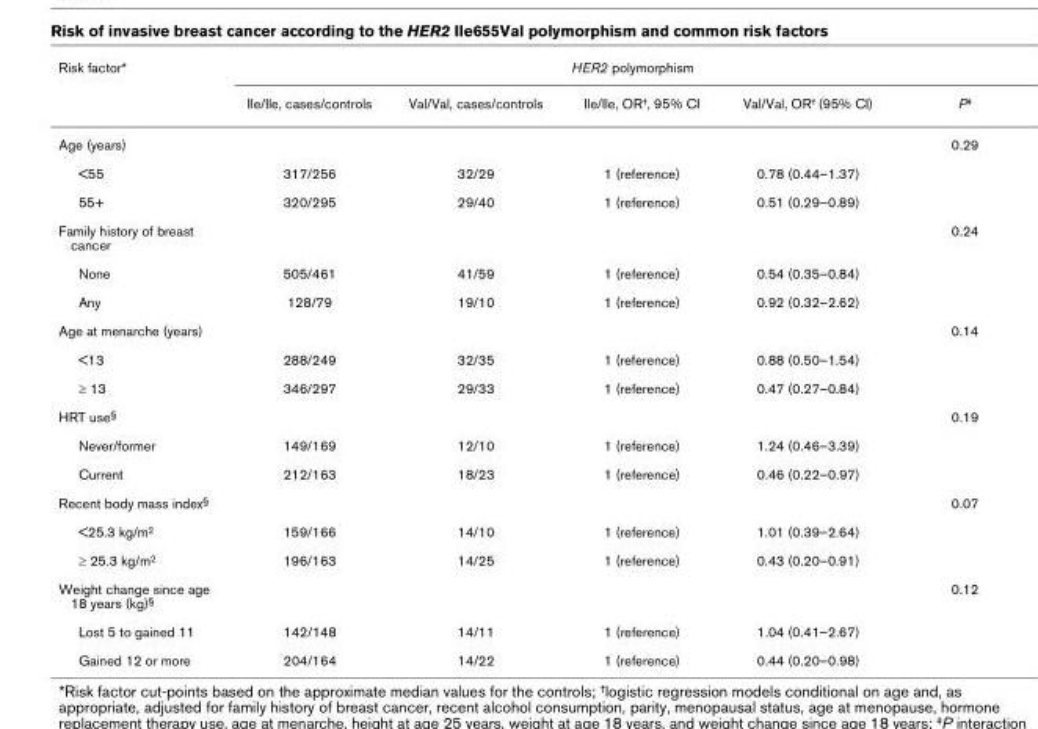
<table><thead><tr><td rowspan="2">Risk factor*</td><td colspan="5">HER2 polymorphism</td></tr><tr><td>Ile/Ile, cases/controls</td><td>Val/Val, cases/controls</td><td>Ile/Ile, OR†, 95% CI</td><td>Val/Val, OR† (95% CI)</td><td>P‡</td></tr></thead><tbody><tr><td>Age (years)</td><td></td><td></td><td></td><td></td><td>0.29</td></tr><tr><td>&lt;55</td><td>317/256</td><td>32/29</td><td>1 (reference)</td><td>0.78 (0.44–1.37)</td><td></td></tr><tr><td>55+</td><td>320/295</td><td>29/40</td><td>1 (reference)</td><td>0.51 (0.29–0.89)</td><td></td></tr><tr><td>Family history of breast cancer</td><td></td><td></td><td></td><td></td><td>0.24</td></tr><tr><td>None</td><td>505/461</td><td>41/59</td><td>1 (reference)</td><td>0.54 (0.35–0.84)</td><td></td></tr><tr><td>Any</td><td>128/79</td><td>19/10</td><td>1 (reference)</td><td>0.92 (0.32–2.62)</td><td></td></tr><tr><td>Age at menarche (years)</td><td></td><td></td><td></td><td></td><td>0.14</td></tr><tr><td>&lt;13</td><td>288/249</td><td>32/35</td><td>1 (reference)</td><td>0.88 (0.50–1.54)</td><td></td></tr><tr><td>≥ 13</td><td>346/297</td><td>29/33</td><td>1 (reference)</td><td>0.47 (0.27–0.84)</td><td></td></tr><tr><td>HRT use§</td><td></td><td></td><td></td><td></td><td>0.19</td></tr><tr><td>Never/former</td><td>149/169</td><td>12/10</td><td>1 (reference)</td><td>1.24 (0.46–3.39)</td><td></td></tr><tr><td>Current</td><td>212/163</td><td>18/23</td><td>1 (reference)</td><td>0.46 (0.22–0.97)</td><td></td></tr><tr><td>Recent body mass index§</td><td></td><td></td><td></td><td></td><td>0.07</td></tr><tr><td>&lt;25.3 kg/m2</td><td>159/166</td><td>14/10</td><td>1 (reference)</td><td>1.01 (0.39–2.64)</td><td></td></tr><tr><td>≥ 25.3 kg/m2</td><td>196/163</td><td>14/25</td><td>1 (reference)</td><td>0.43 (0.20–0.91)</td><td></td></tr><tr><td>Weight change since age 18 years (kg)§</td><td></td><td></td><td></td><td></td><td>0.12</td></tr><tr><td>Lost 5 to gained 11</td><td>142/148</td><td>14/11</td><td>1 (reference)</td><td>1.04 (0.41–2.67)</td><td></td></tr><tr><td>Gained 12 or more</td><td>204/164</td><td>14/22</td><td>1 (reference)</td><td>0.44 (0.20–0.98)</td><td></td></tr></tbody></table>